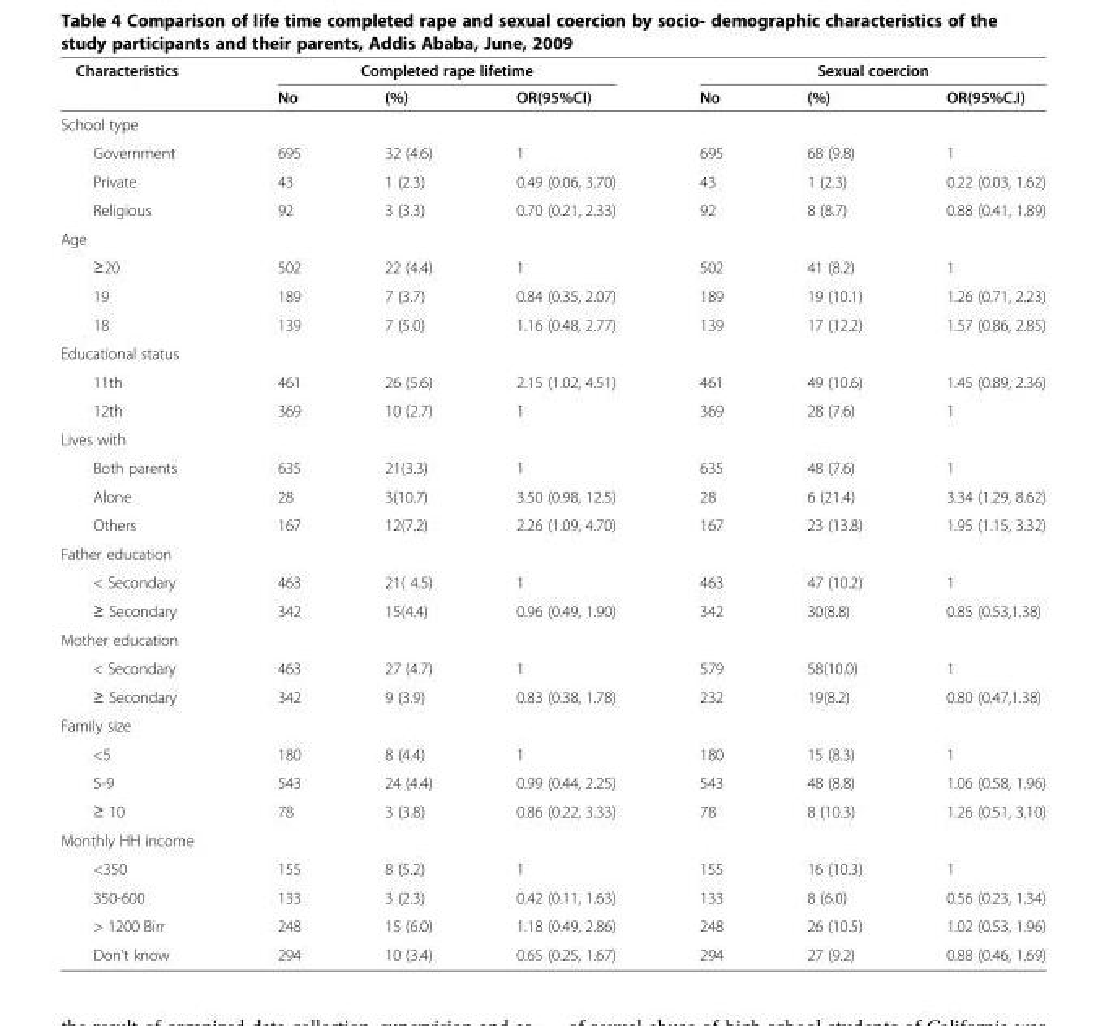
<table><thead><tr><td rowspan="2">Characteristics</td><td colspan="3">Completed rape lifetime</td><td colspan="3">Sexual coercion</td></tr><tr><td>No</td><td>(%)</td><td>OR(95%CI)</td><td>No</td><td>(%)</td><td>OR(95%C.I)</td></tr></thead><tbody><tr><td colspan="7">School type</td></tr><tr><td>Government</td><td>695</td><td>32 (4.6)</td><td>1</td><td>695</td><td>68 (9.8)</td><td>1</td></tr><tr><td>Private</td><td>43</td><td>1 (2.3)</td><td>0.49 (0.06, 3.70)</td><td>43</td><td>1 (2.3)</td><td>0.22 (0.03, 1.62)</td></tr><tr><td>Religious</td><td>92</td><td>3 (3.3)</td><td>0.70 (0.21, 2.33)</td><td>92</td><td>8 (8.7)</td><td>0.88 (0.41, 1.89)</td></tr><tr><td colspan="7">Age</td></tr><tr><td>≥20</td><td>502</td><td>22 (4.4)</td><td>1</td><td>502</td><td>41 (8.2)</td><td>1</td></tr><tr><td>19</td><td>189</td><td>7 (3.7)</td><td>0.84 (0.35, 2.07)</td><td>189</td><td>19 (10.1)</td><td>1.26 (0.71, 2.23)</td></tr><tr><td>18</td><td>139</td><td>7 (5.0)</td><td>1.16 (0.48, 2.77)</td><td>139</td><td>17 (12.2)</td><td>1.57 (0.86, 2.85)</td></tr><tr><td colspan="7">Educational status</td></tr><tr><td>11th</td><td>461</td><td>26 (5.6)</td><td>2.15 (1.02, 4.51)</td><td>461</td><td>49 (10.6)</td><td>1.45 (0.89, 2.36)</td></tr><tr><td>12th</td><td>369</td><td>10 (2.7)</td><td>1</td><td>369</td><td>28 (7.6)</td><td>1</td></tr><tr><td colspan="7">Lives with</td></tr><tr><td>Both parents</td><td>635</td><td>21(3.3)</td><td>1</td><td>635</td><td>48 (7.6)</td><td>1</td></tr><tr><td>Alone</td><td>28</td><td>3(10.7)</td><td>3.50 (0.98, 12.5)</td><td>28</td><td>6 (21.4)</td><td>3.34 (1.29, 8.62)</td></tr><tr><td>Others</td><td>167</td><td>12(7.2)</td><td>2.26 (1.09, 4.70)</td><td>167</td><td>23 (13.8)</td><td>1.95 (1.15, 3.32)</td></tr><tr><td colspan="7">Father education</td></tr><tr><td>&lt; Secondary</td><td>463</td><td>21( 4.5)</td><td>1</td><td>463</td><td>47 (10.2)</td><td>1</td></tr><tr><td>≥ Secondary</td><td>342</td><td>15(4.4)</td><td>0.96 (0.49, 1.90)</td><td>342</td><td>30(8.8)</td><td>0.85 (0.53,1.38)</td></tr><tr><td colspan="7">Mother education</td></tr><tr><td>&lt; Secondary</td><td>463</td><td>27 (4.7)</td><td>1</td><td>579</td><td>58(10.0)</td><td>1</td></tr><tr><td>≥ Secondary</td><td>342</td><td>9 (3.9)</td><td>0.83 (0.38, 1.78)</td><td>232</td><td>19(8.2)</td><td>0.80 (0.47,1.38)</td></tr><tr><td colspan="7">Family size</td></tr><tr><td>&lt;5</td><td>180</td><td>8 (4.4)</td><td>1</td><td>180</td><td>15 (8.3)</td><td>1</td></tr><tr><td>5-9</td><td>543</td><td>24 (4.4)</td><td>0.99 (0.44, 2.25)</td><td>543</td><td>48 (8.8)</td><td>1.06 (0.58, 1.96)</td></tr><tr><td>≥ 10</td><td>78</td><td>3 (3.8)</td><td>0.86 (0.22, 3.33)</td><td>78</td><td>8 (10.3)</td><td>1.26 (0.51, 3.10)</td></tr><tr><td colspan="7">Monthly HH income</td></tr><tr><td>&lt;350</td><td>155</td><td>8 (5.2)</td><td>1</td><td>155</td><td>16 (10.3)</td><td>1</td></tr><tr><td>350-600</td><td>133</td><td>3 (2.3)</td><td>0.42 (0.11, 1.63)</td><td>133</td><td>8 (6.0)</td><td>0.56 (0.23, 1.34)</td></tr><tr><td>&gt; 1200 Birr</td><td>248</td><td>15 (6.0)</td><td>1.18 (0.49, 2.86)</td><td>248</td><td>26 (10.5)</td><td>1.02 (0.53, 1.96)</td></tr><tr><td>Don’t know</td><td>294</td><td>10 (3.4)</td><td>0.65 (0.25, 1.67)</td><td>294</td><td>27 (9.2)</td><td>0.88 (0.46, 1.69)</td></tr></tbody></table>